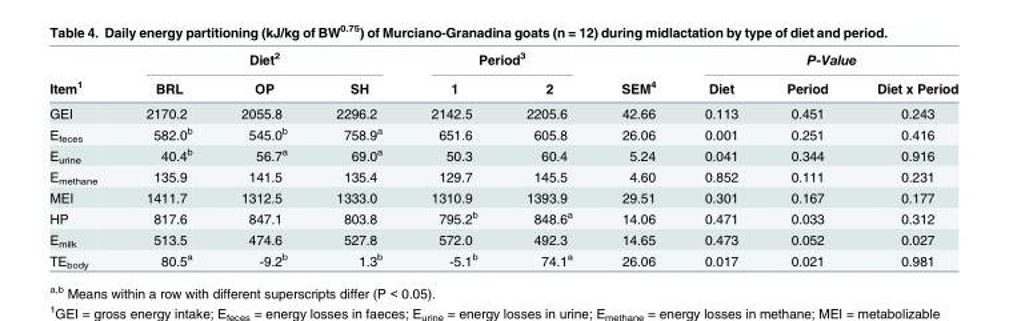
<table><thead><tr><td rowspan="2">Item<sup>1</sup></td><td colspan="3">Diet<sup>2</sup></td><td colspan="2">Period<sup>3</sup></td><td rowspan="2">SEM<sup>4</sup></td><td colspan="3">P-Value</td></tr><tr><td>BRL</td><td>OP</td><td>SH</td><td>1</td><td>2</td><td>Diet</td><td>Period</td><td>Diet x Period</td></tr></thead><tbody><tr><td>GEI</td><td>2170.2</td><td>2055.8</td><td>2296.2</td><td>2142.5</td><td>2205.6</td><td>42.66</td><td>0.113</td><td>0.451</td><td>0.243</td></tr><tr><td>E<sub>feces</sub></td><td>582.0<sup>b</sup></td><td>545.0<sup>b</sup></td><td>758.9<sup>a</sup></td><td>651.6</td><td>605.8</td><td>26.06</td><td>0.001</td><td>0.251</td><td>0.416</td></tr><tr><td>E<sub>urine</sub></td><td>40.4<sup>b</sup></td><td>56.7<sup>a</sup></td><td>69.0<sup>a</sup></td><td>50.3</td><td>60.4</td><td>5.24</td><td>0.041</td><td>0.344</td><td>0.916</td></tr><tr><td>E<sub>methane</sub></td><td>135.9</td><td>141.5</td><td>135.4</td><td>129.7</td><td>145.5</td><td>4.60</td><td>0.852</td><td>0.111</td><td>0.231</td></tr><tr><td>MEI</td><td>1411.7</td><td>1312.5</td><td>1333.0</td><td>1310.9</td><td>1393.9</td><td>29.51</td><td>0.301</td><td>0.167</td><td>0.177</td></tr><tr><td>HP</td><td>817.6</td><td>847.1</td><td>803.8</td><td>795.2<sup>b</sup></td><td>848.6<sup>a</sup></td><td>14.06</td><td>0.471</td><td>0.033</td><td>0.312</td></tr><tr><td>E<sub>milk</sub></td><td>513.5</td><td>474.6</td><td>527.8</td><td>572.0</td><td>492.3</td><td>14.65</td><td>0.473</td><td>0.052</td><td>0.027</td></tr><tr><td>TE<sub>body</sub></td><td>80.5<sup>a</sup></td><td>-9.2<sup>b</sup></td><td>1.3<sup>b</sup></td><td>-5.1<sup>b</sup></td><td>74.1<sup>a</sup></td><td>26.06</td><td>0.017</td><td>0.021</td><td>0.981</td></tr></tbody></table>